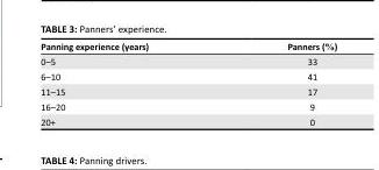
<table><thead><tr><td>Panning experience (years)</td><td>Panners (%)</td></tr></thead><tbody><tr><td>0–5</td><td>33</td></tr><tr><td>6–10</td><td>41</td></tr><tr><td>11–15</td><td>17</td></tr><tr><td>16–20</td><td>9</td></tr><tr><td>20+</td><td>0</td></tr></tbody></table>